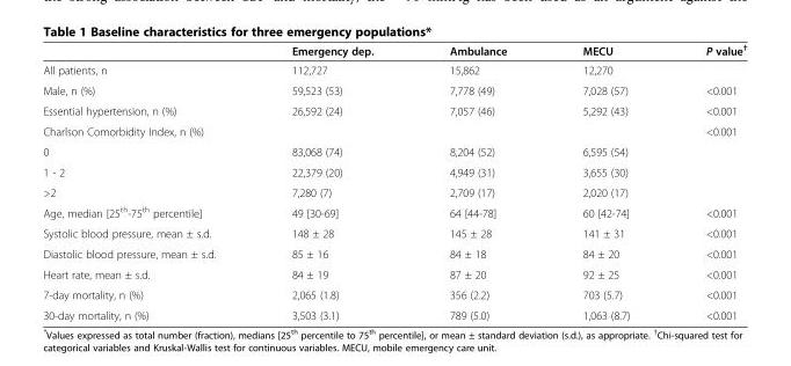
<table><thead><tr><td></td><td>Emergency dep.</td><td>Ambulance</td><td>MECU</td><td>P value<sup>†</sup></td></tr></thead><tbody><tr><td>All patients, n</td><td>112,727</td><td>15,862</td><td>12,270</td><td></td></tr><tr><td>Male, n (%)</td><td>59,523 (53)</td><td>7,778 (49)</td><td>7,028 (57)</td><td>&lt;0.001</td></tr><tr><td>Essential hypertension, n (%)</td><td>26,592 (24)</td><td>7,057 (46)</td><td>5,292 (43)</td><td>&lt;0.001</td></tr><tr><td>Charlson Comorbidity Index, n (%)</td><td></td><td></td><td></td><td>&lt;0.001</td></tr><tr><td>0</td><td>83,068 (74)</td><td>8,204 (52)</td><td>6,595 (54)</td><td></td></tr><tr><td>1 - 2</td><td>22,379 (20)</td><td>4,949 (31)</td><td>3,655 (30)</td><td></td></tr><tr><td>&gt;2</td><td>7,280 (7)</td><td>2,709 (17)</td><td>2,020 (17)</td><td></td></tr><tr><td>Age, median [25<sup>th</sup>-75<sup>th</sup> percentile]</td><td>49 [30-69]</td><td>64 [44-78]</td><td>60 [42-74]</td><td>&lt;0.001</td></tr><tr><td>Systolic blood pressure, mean ± s.d.</td><td>148 ± 28</td><td>145 ± 28</td><td>141 ± 31</td><td>&lt;0.001</td></tr><tr><td>Diastolic blood pressure, mean ± s.d.</td><td>85 ± 16</td><td>84 ± 18</td><td>84 ± 20</td><td>&lt;0.001</td></tr><tr><td>Heart rate, mean ± s.d.</td><td>84 ± 19</td><td>87 ± 20</td><td>92 ± 25</td><td>&lt;0.001</td></tr><tr><td>7-day mortality, n (%)</td><td>2,065 (1.8)</td><td>356 (2.2)</td><td>703 (5.7)</td><td>&lt;0.001</td></tr><tr><td>30-day mortality, n (%)</td><td>3,503 (3.1)</td><td>789 (5.0)</td><td>1,063 (8.7)</td><td>&lt;0.001</td></tr></tbody></table>